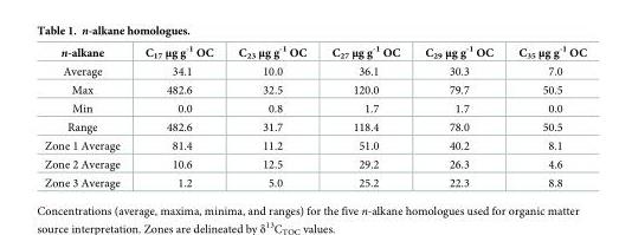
<table><thead><tr><td>n-alkane</td><td>C<sub>17</sub> μg g<sup>-1</sup> OC</td><td>C<sub>23</sub> μg g<sup>-1</sup> OC</td><td>C<sub>27</sub> μg g<sup>-1</sup> OC</td><td>C<sub>29</sub> μg g<sup>-1</sup> OC</td><td>C<sub>35</sub> μg g<sup>-1</sup> OC</td></tr></thead><tbody><tr><td>Average</td><td>34.1</td><td>10.0</td><td>36.1</td><td>30.3</td><td>7.0</td></tr><tr><td>Max</td><td>482.6</td><td>32.5</td><td>120.0</td><td>79.7</td><td>50.5</td></tr><tr><td>Min</td><td>0.0</td><td>0.8</td><td>1.7</td><td>1.7</td><td>0.0</td></tr><tr><td>Range</td><td>482.6</td><td>31.7</td><td>118.4</td><td>78.0</td><td>50.5</td></tr><tr><td>Zone 1 Average</td><td>81.4</td><td>11.2</td><td>51.0</td><td>40.2</td><td>8.1</td></tr><tr><td>Zone 2 Average</td><td>10.6</td><td>12.5</td><td>29.2</td><td>26.3</td><td>4.6</td></tr><tr><td>Zone 3 Average</td><td>1.2</td><td>5.0</td><td>25.2</td><td>22.3</td><td>8.8</td></tr></tbody></table>